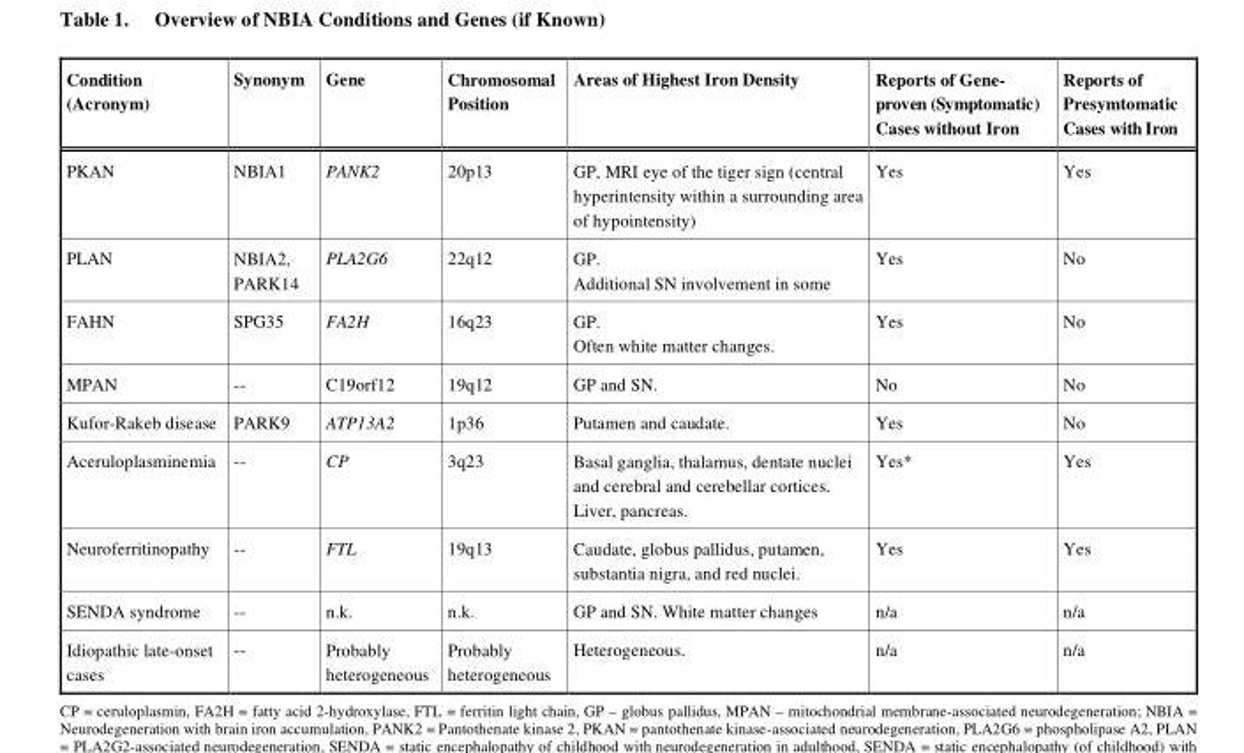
<table><thead><tr><td>Condition (Acronym)</td><td>Synonym</td><td>Gene</td><td>Chromosomal Position</td><td>Areas of Highest Iron Density</td><td>Reports of Gene- proven (Symptomatic) Cases without Iron</td><td>Reports of Presymtomatic Cases with Iron</td></tr></thead><tbody><tr><td>PKAN</td><td>NBIA1</td><td>PANK2</td><td>20p13</td><td>GP, MRI eye of the tiger sign (central hyperintensity within a surrounding area of hypointensity)</td><td>Yes</td><td>Yes</td></tr><tr><td>PLAN</td><td>NBIA2, PARK14</td><td>PLA2G6</td><td>22q12</td><td>GP. Additional SN involvement in some</td><td>Yes</td><td>No</td></tr><tr><td>FAHN</td><td>SPG35</td><td>FA2H</td><td>16q23</td><td>GP. Often white matter changes.</td><td>Yes</td><td>No</td></tr><tr><td>MPAN</td><td>--</td><td>C19orf12</td><td>19q12</td><td>GP and SN.</td><td>No</td><td>No</td></tr><tr><td>Kufor-Rakeb disease</td><td>PARK9</td><td>ATP13A2</td><td>1p36</td><td>Putamen and caudate.</td><td>Yes</td><td>No</td></tr><tr><td>Aceruloplasminemia</td><td>--</td><td>CP</td><td>3q23</td><td>Basal ganglia, thalamus, dentate nuclei and cerebral and cerebellar cortices. Liver, pancreas.</td><td>Yes*</td><td>Yes</td></tr><tr><td>Neuroferritinopathy</td><td>--</td><td>FTL</td><td>19q13</td><td>Caudate, globus pallidus, putamen, substantia nigra, and red nuclei.</td><td>Yes</td><td>Yes</td></tr><tr><td>SENDA syndrome</td><td>--</td><td>n.k.</td><td>n.k.</td><td>GP and SN. White matter changes</td><td>n/a</td><td>n/a</td></tr><tr><td>Idiopathic late-onset cases</td><td>--</td><td>Probably heterogeneous</td><td>Probably heterogeneous</td><td>Heterogeneous.</td><td>n/a</td><td>n/a</td></tr></tbody></table>